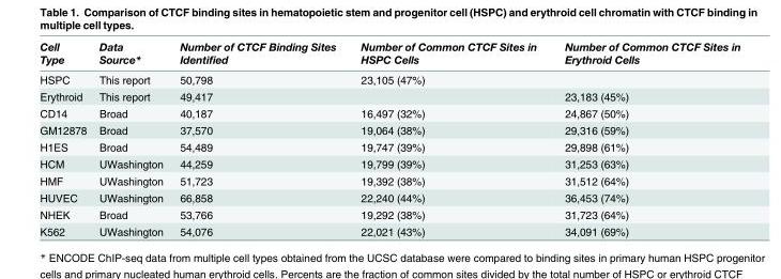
<table><thead><tr><td>Cell Type</td><td>Data Source*</td><td>Number of CTCF Binding Sites Identified</td><td>Number of Common CTCF Sites in HSPC Cells</td><td>Number of Common CTCF Sites in Erythroid Cells</td></tr></thead><tbody><tr><td>HSPC</td><td>This report</td><td>50,798</td><td>23,105 (47%)</td><td></td></tr><tr><td>Erythroid</td><td>This report</td><td>49,417</td><td></td><td>23,183 (45%)</td></tr><tr><td>CD14</td><td>Broad</td><td>40,187</td><td>16,497 (32%)</td><td>24,867 (50%)</td></tr><tr><td>GM12878</td><td>Broad</td><td>37,570</td><td>19,064 (38%)</td><td>29,316 (59%)</td></tr><tr><td>H1ES</td><td>Broad</td><td>54,489</td><td>19,747 (39%)</td><td>29,898 (61%)</td></tr><tr><td>HCM</td><td>UWashington</td><td>44,259</td><td>19,799 (39%)</td><td>31,253 (63%)</td></tr><tr><td>HMF</td><td>UWashington</td><td>51,723</td><td>19,392 (38%)</td><td>31,512 (64%)</td></tr><tr><td>HUVEC</td><td>UWashington</td><td>66,858</td><td>22,240 (44%)</td><td>36,453 (74%)</td></tr><tr><td>NHEK</td><td>Broad</td><td>53,766</td><td>19,292 (38%)</td><td>31,723 (64%)</td></tr><tr><td>K562</td><td>UWashington</td><td>54,076</td><td>22,021 (43%)</td><td>34,091 (69%)</td></tr></tbody></table>